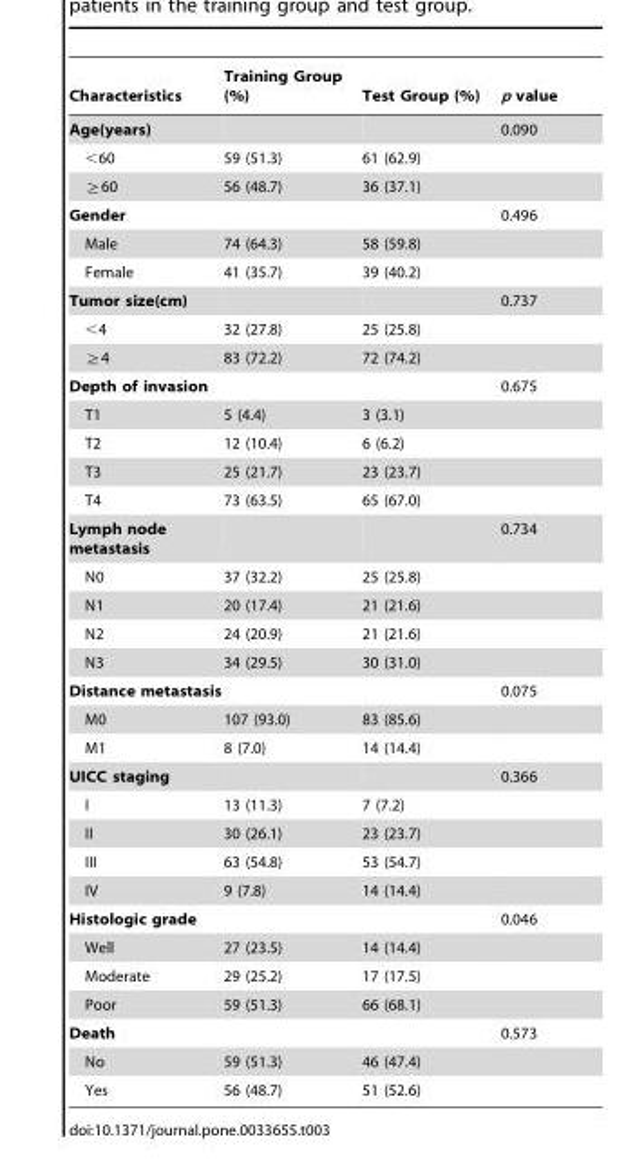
<table><thead><tr><td>Characteristics</td><td>Training Group (%)</td><td>Test Group (%)</td><td>p value</td></tr></thead><tbody><tr><td>Age(years)</td><td></td><td></td><td>0.090</td></tr><tr><td>&lt;60</td><td>59 (51.3)</td><td>61 (62.9)</td><td></td></tr><tr><td>≧60</td><td>56 (48.7)</td><td>36 (37.1)</td><td></td></tr><tr><td>Gender</td><td></td><td></td><td>0.496</td></tr><tr><td>Male</td><td>74 (64.3)</td><td>58 (59.8)</td><td></td></tr><tr><td>Female</td><td>41 (35.7)</td><td>39 (40.2)</td><td></td></tr><tr><td>Tumor size(cm)</td><td></td><td></td><td>0.737</td></tr><tr><td>&lt;4</td><td>32 (27.8)</td><td>25 (25.8)</td><td></td></tr><tr><td>≧4</td><td>83 (72.2)</td><td>72 (74.2)</td><td></td></tr><tr><td>Depth of invasion</td><td></td><td></td><td>0.675</td></tr><tr><td>T1</td><td>5 (4.4)</td><td>3 (3.1)</td><td></td></tr><tr><td>T2</td><td>12 (10.4)</td><td>6 (6.2)</td><td></td></tr><tr><td>T3</td><td>25 (21.7)</td><td>23 (23.7)</td><td></td></tr><tr><td>T4</td><td>73 (63.5)</td><td>65 (67.0)</td><td></td></tr><tr><td>Lymph node metastasis</td><td></td><td></td><td>0.734</td></tr><tr><td>N0</td><td>37 (32.2)</td><td>25 (25.8)</td><td></td></tr><tr><td>N1</td><td>20 (17.4)</td><td>21 (21.6)</td><td></td></tr><tr><td>N2</td><td>24 (20.9)</td><td>21 (21.6)</td><td></td></tr><tr><td>N3</td><td>34 (29.5)</td><td>30 (31.0)</td><td></td></tr><tr><td>Distance metastasis</td><td></td><td></td><td>0.075</td></tr><tr><td>M0</td><td>107 (93.0)</td><td>83 (85.6)</td><td></td></tr><tr><td>M1</td><td>8 (7.0)</td><td>14 (14.4)</td><td></td></tr><tr><td>UICC staging</td><td></td><td></td><td>0.366</td></tr><tr><td>I</td><td>13 (11.3)</td><td>7 (7.2)</td><td></td></tr><tr><td>II</td><td>30 (26.1)</td><td>23 (23.7)</td><td></td></tr><tr><td>III</td><td>63 (54.8)</td><td>53 (54.7)</td><td></td></tr><tr><td>IV</td><td>9 (7.8)</td><td>14 (14.4)</td><td></td></tr><tr><td>Histologic grade</td><td></td><td></td><td>0.046</td></tr><tr><td>Well</td><td>27 (23.5)</td><td>14 (14.4)</td><td></td></tr><tr><td>Moderate</td><td>29 (25.2)</td><td>17 (17.5)</td><td></td></tr><tr><td>Poor</td><td>59 (51.3)</td><td>66 (68.1)</td><td></td></tr><tr><td>Death</td><td></td><td></td><td>0.573</td></tr><tr><td>No</td><td>59 (51.3)</td><td>46 (47.4)</td><td></td></tr><tr><td>Yes</td><td>56 (48.7)</td><td>51 (52.6)</td><td></td></tr></tbody></table>